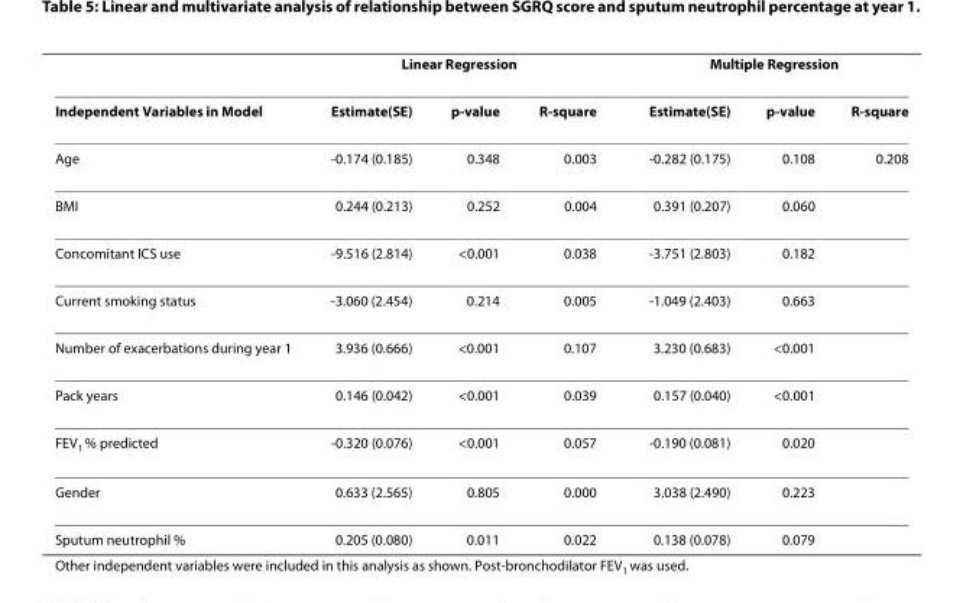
<table><thead><tr><td rowspan="2">Independent Variables in Model</td><td colspan="3">Linear Regression</td><td colspan="3">Multiple Regression</td></tr><tr><td>Estimate(SE)</td><td>p-value</td><td>R-square</td><td>Estimate(SE)</td><td>p-value</td><td>R-square</td></tr></thead><tbody><tr><td>Age</td><td>-0.174 (0.185)</td><td>0.348</td><td>0.003</td><td>-0.282 (0.175)</td><td>0.108</td><td>0.208</td></tr><tr><td>BMI</td><td>0.244 (0.213)</td><td>0.252</td><td>0.004</td><td>0.391 (0.207)</td><td>0.060</td><td></td></tr><tr><td>Concomitant ICS use</td><td>-9.516 (2.814)</td><td>&lt;0.001</td><td>0.038</td><td>-3.751 (2.803)</td><td>0.182</td><td></td></tr><tr><td>Current smoking status</td><td>-3.060 (2.454)</td><td>0.214</td><td>0.005</td><td>-1.049 (2.403)</td><td>0.663</td><td></td></tr><tr><td>Number of exacerbations during year 1</td><td>3.936 (0.666)</td><td>&lt;0.001</td><td>0.107</td><td>3.230 (0.683)</td><td>&lt;0.001</td><td></td></tr><tr><td>Pack years</td><td>0.146 (0.042)</td><td>&lt;0.001</td><td>0.039</td><td>0.157 (0.040)</td><td>&lt;0.001</td><td></td></tr><tr><td>FEV1 % predicted</td><td>-0.320 (0.076)</td><td>&lt;0.001</td><td>0.057</td><td>-0.190 (0.081)</td><td>0.020</td><td></td></tr><tr><td>Gender</td><td>0.633 (2.565)</td><td>0.805</td><td>0.000</td><td>3.038 (2.490)</td><td>0.223</td><td></td></tr><tr><td>Sputum neutrophil %</td><td>0.205 (0.080)</td><td>0.011</td><td>0.022</td><td>0.138 (0.078)</td><td>0.079</td><td></td></tr></tbody></table>